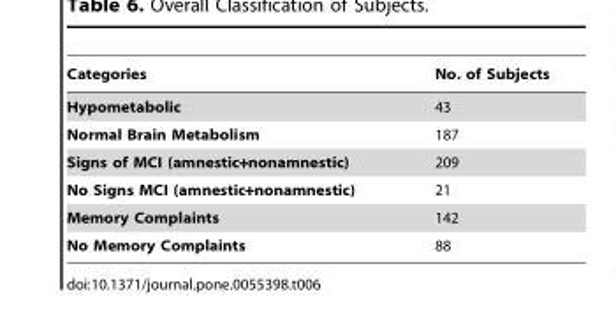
<table><thead><tr><td>Categories</td><td>No. of Subjects</td></tr></thead><tbody><tr><td>Hypometabolic</td><td>43</td></tr><tr><td>Normal Brain Metabolism</td><td>187</td></tr><tr><td>Signs of MCI (amnestic+nonamnestic)</td><td>209</td></tr><tr><td>No Signs MCI (amnestic+nonamnestic)</td><td>21</td></tr><tr><td>Memory Complaints</td><td>142</td></tr><tr><td>No Memory Complaints</td><td>88</td></tr></tbody></table>